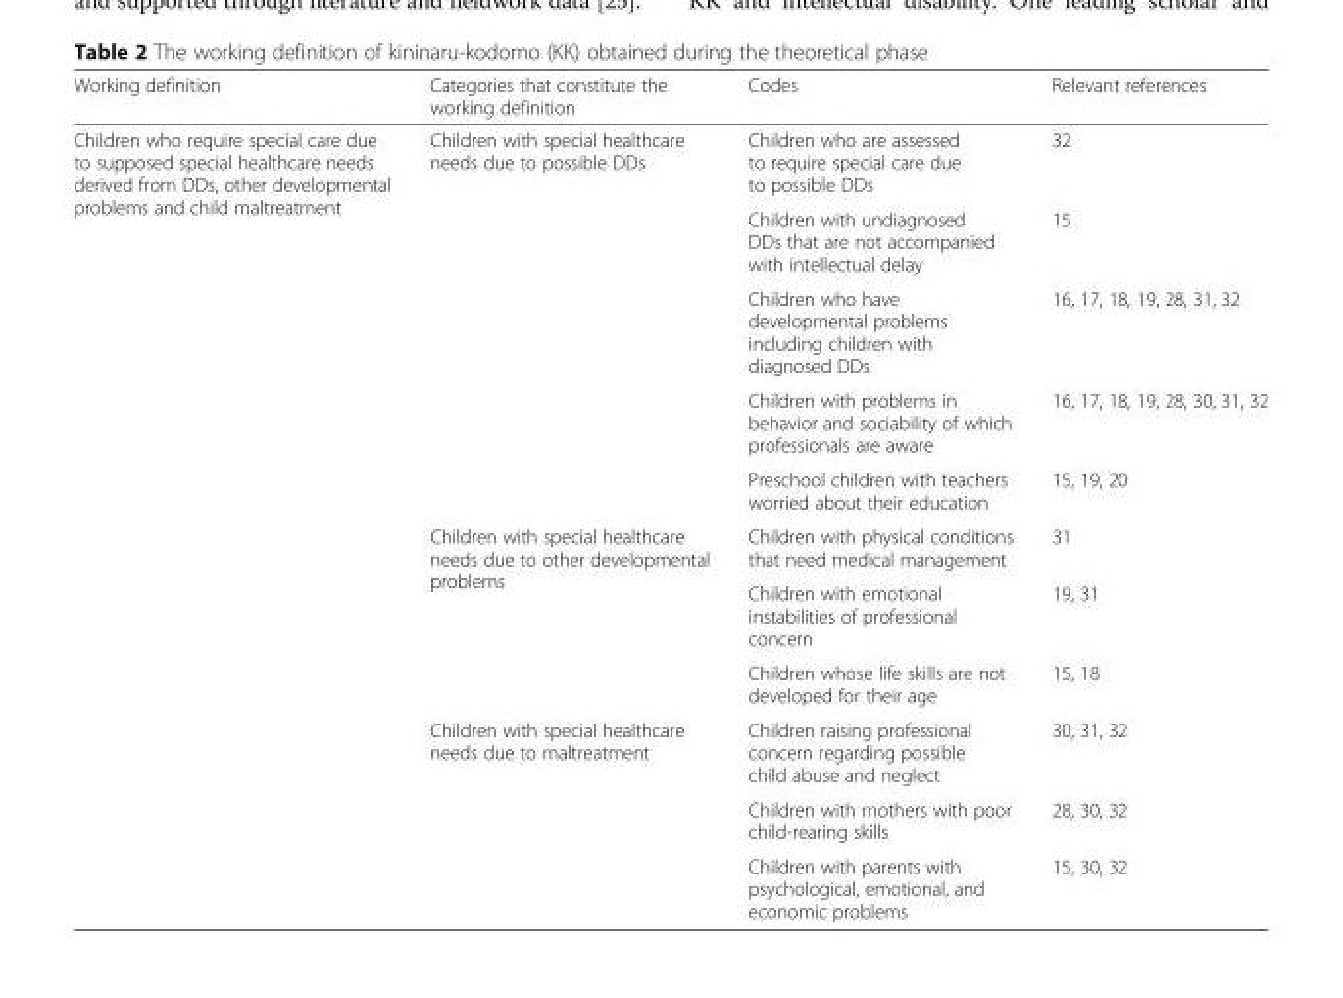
<table><thead><tr><td>Working definition</td><td>Categories that constitute the working definition</td><td>Codes</td><td>Relevant references</td></tr></thead><tbody><tr><td rowspan="11">Children who require special care due to supposed special healthcare needs derived from DDs, other developmental problems and child maltreatment</td><td rowspan="5">Children with special healthcare needs due to possible DDs</td><td>Children who are assessed to require special care due to possible DDs</td><td>32</td></tr><tr><td>Children with undiagnosed DDs that are not accompanied with intellectual delay</td><td>15</td></tr><tr><td>Children who have developmental problems including children with diagnosed DDs</td><td>16, 17, 18, 19, 28, 31, 32</td></tr><tr><td>Children with problems in behavior and sociability of which professionals are aware</td><td>16, 17, 18, 19, 28, 30, 31, 32</td></tr><tr><td>Preschool children with teachers worried about their education</td><td>15, 19, 20</td></tr><tr><td rowspan="3">Children with special healthcare needs due to other developmental problems</td><td>Children with physical conditions that need medical management</td><td>31</td></tr><tr><td>Children with emotional instabilities of professional concern</td><td>19, 31</td></tr><tr><td>Children whose life skills are not developed for their age</td><td>15, 18</td></tr><tr><td rowspan="3">Children with special healthcare needs due to maltreatment</td><td>Children raising professional concern regarding possible child abuse and neglect</td><td>30, 31, 32</td></tr><tr><td>Children with mothers with poor child-rearing skills</td><td>28, 30, 32</td></tr><tr><td>Children with parents with psychological, emotional, and economic problems</td><td>15, 30, 32</td></tr></tbody></table>